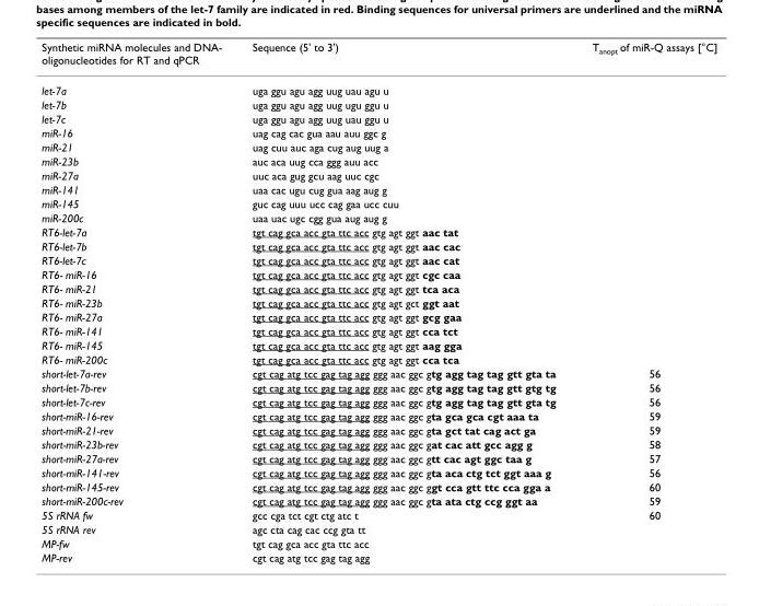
<table><thead><tr><td>Synthetic miRNA molecules and DNA- oligonucleotides for RT and qPCR</td><td>Sequence (5&#x27; to 3&#x27;)</td><td>T<sub>anopt</sub> of miR-Q assays [°C]</td></tr></thead><tbody><tr><td>let-7a</td><td>uga ggu agu agg uug uau agu u</td><td></td></tr><tr><td>let-7b</td><td>uga ggu agu agg uug ugu ggu u</td><td></td></tr><tr><td>let-7c</td><td>uga ggu agu agg uug uau ggu u</td><td></td></tr><tr><td>miR-16</td><td>uag cag cac gua aau auu ggc g</td><td></td></tr><tr><td>miR-21</td><td>uag cuu auc aga cug aug uug a</td><td></td></tr><tr><td>miR-23b</td><td>auc aca uug cca ggg auu acc</td><td></td></tr><tr><td>miR-27a</td><td>uuc aca gug gcu aag uuc cgc</td><td></td></tr><tr><td>miR-141</td><td>uaa cac ugu cug gua aag aug g</td><td></td></tr><tr><td>miR-145</td><td>guc cag uuu ucc cag gaa ucc cuu</td><td></td></tr><tr><td>miR-200c</td><td>uaa uac ugc cgg gua aug aug g</td><td></td></tr><tr><td>RT6-let-7a</td><td>tgt cag gca acc gta ttc acc gtg agt ggt aac tat</td><td></td></tr><tr><td>RT6-let-7b</td><td>tgt cag gca acc gta ttc acc gtg agt ggt aac cac</td><td></td></tr><tr><td>RT6-let-7c</td><td>tgt cag gca acc gta ttc acc gtg agt ggt aac cat</td><td></td></tr><tr><td>RT6- miR-16</td><td>tgt cag gca acc gta ttc acc gtg agt ggt cgc caa</td><td></td></tr><tr><td>RT6- miR-21</td><td>tgt cag gca acc gta ttc acc gtg agt ggt tca aca</td><td></td></tr><tr><td>RT6- miR-23b</td><td>tgt cag gca acc gta ttc acc gtg agt gct ggt aat</td><td></td></tr><tr><td>RT6- miR-27a</td><td>tgt cag gca acc gta ttc acc gtg agt ggt gcg gaa</td><td></td></tr><tr><td>RT6- miR-141</td><td>tgt cag gca acc gta ttc acc gtg agt ggt cca tct</td><td></td></tr><tr><td>RT6- miR-145</td><td>tgt cag gca acc gta ttc acc gtg agt ggt aag gga</td><td></td></tr><tr><td>RT6- miR-200c</td><td>tgt cag gca acc gta ttc acc gtg agt ggt cca tca</td><td></td></tr><tr><td>short-let-7a-rev</td><td>cgt cag atg tcc gag tag agg ggg aac ggc gtg agg tag tag gtt gta ta</td><td>56</td></tr><tr><td>short-let-7b-rev</td><td>cgt cag atg tcc gag tag agg ggg aac ggc gtg agg tag tag gtt gtg tg</td><td>56</td></tr><tr><td>short-let-7c-rev</td><td>cgt cag atg tcc gag tag agg ggg aac ggc gtg agg tag tag gtt gta tg</td><td>56</td></tr><tr><td>short-miR-16-rev</td><td>cgt cag atg tcc gag tag agg ggg aac ggc gta gca gca cgt aaa ta</td><td>59</td></tr><tr><td>short-miR-21-rev</td><td>cgt cag atg tcc gag tag agg ggg aac ggc gta gct tat cag act ga</td><td>59</td></tr><tr><td>short-miR-23b-rev</td><td>cgt cag atg tcc gag tag agg ggg aac ggc gat cac att gcc agg g</td><td>58</td></tr><tr><td>short-miR-27a-rev</td><td>cgt cag atg tcc gag tag agg ggg aac ggc gtt cac agt ggc taa g</td><td>57</td></tr><tr><td>short-miR-141-rev</td><td>cgt cag atg tcc gag tag agg ggg aac ggc gta aca ctg tct ggt aaa g</td><td>56</td></tr><tr><td>short-miR-145-rev</td><td>cgt cag atg tcc gag tag agg ggg aac ggc ggt cca gtt ttc cca gga a</td><td>60</td></tr><tr><td>short-miR-200c-rev</td><td>cgt cag atg tcc gag tag agg ggg aac ggc gta ata ctg ccg ggt aa</td><td>59</td></tr><tr><td>5S rRNA fw</td><td>gcc cga tct cgt ctg atc t</td><td>60</td></tr><tr><td>5S rRNA rev</td><td>agc cta cag cac ccg gta tt</td><td></td></tr><tr><td>MP-fw</td><td>tgt cag gca acc gta ttc acc</td><td></td></tr><tr><td>MP-rev</td><td>cgt cag atg tcc gag tag agg</td><td></td></tr></tbody></table>